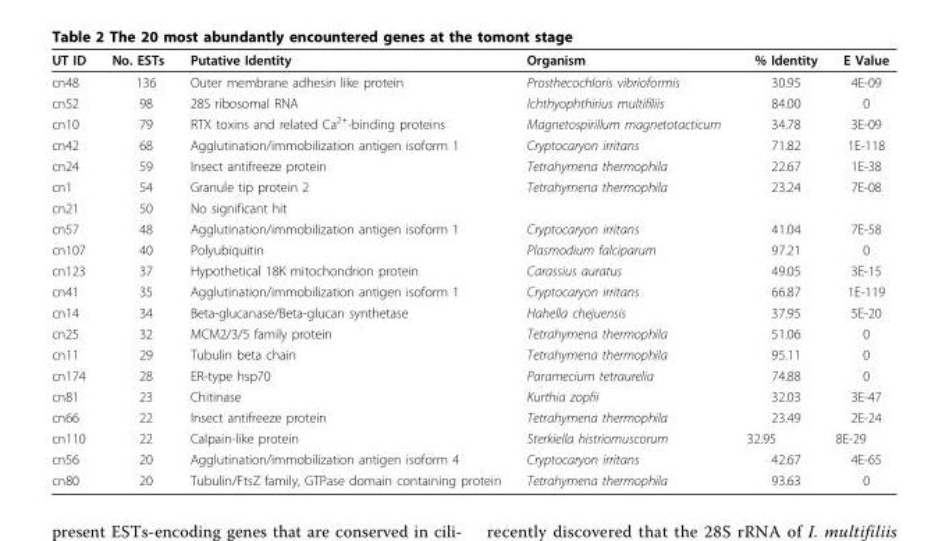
<table><thead><tr><td>UT ID</td><td>No. ESTs</td><td>Putative Identity</td><td>Organism</td><td>% Identity</td><td>E Value</td></tr></thead><tbody><tr><td>cn48</td><td>136</td><td>Outer membrane adhesin like protein</td><td>Prosthecochloris vibrioformis</td><td>30.95</td><td>4E-09</td></tr><tr><td>cn52</td><td>98</td><td>28S ribosomal RNA</td><td>Ichthyophthirius multifiliis</td><td>84.00</td><td>0</td></tr><tr><td>cn10</td><td>79</td><td>RTX toxins and related Ca<sup>2+</sup>-binding proteins</td><td>Magnetospirillum magnetotacticum</td><td>34.78</td><td>3E-09</td></tr><tr><td>cn42</td><td>68</td><td>Agglutination/immobilization antigen isoform 1</td><td>Cryptocaryon irritans</td><td>71.82</td><td>1E-118</td></tr><tr><td>cn24</td><td>59</td><td>Insect antifreeze protein</td><td>Tetrahymena thermophila</td><td>22.67</td><td>1E-38</td></tr><tr><td>cn1</td><td>54</td><td>Granule tip protein 2</td><td>Tetrahymena thermophila</td><td>23.24</td><td>7E-08</td></tr><tr><td>cn21</td><td>50</td><td>No significant hit</td><td></td><td></td><td></td></tr><tr><td>cn57</td><td>48</td><td>Agglutination/immobilization antigen isoform 1</td><td>Cryptocaryon irritans</td><td>41.04</td><td>7E-58</td></tr><tr><td>cn107</td><td>40</td><td>Polyubiquitin</td><td>Plasmodium falciparum</td><td>97.21</td><td>0</td></tr><tr><td>cn123</td><td>37</td><td>Hypothetical 18K mitochondrion protein</td><td>Carassius auratus</td><td>49.05</td><td>3E-15</td></tr><tr><td>cn41</td><td>35</td><td>Agglutination/immobilization antigen isoform 1</td><td>Cryptocaryon irritans</td><td>66.87</td><td>1E-119</td></tr><tr><td>cn14</td><td>34</td><td>Beta-glucanase/Beta-glucan synthetase</td><td>Hahella chejuensis</td><td>37.95</td><td>5E-20</td></tr><tr><td>cn25</td><td>32</td><td>MCM2/3/5 family protein</td><td>Tetrahymena thermophila</td><td>51.06</td><td>0</td></tr><tr><td>cn11</td><td>29</td><td>Tubulin beta chain</td><td>Tetrahymena thermophila</td><td>95.11</td><td>0</td></tr><tr><td>cn174</td><td>28</td><td>ER-type hsp70</td><td>Paramecium tetraurelia</td><td>74.88</td><td>0</td></tr><tr><td>cn81</td><td>23</td><td>Chitinase</td><td>Kurthia zopfii</td><td>32.03</td><td>3E-47</td></tr><tr><td>cn66</td><td>22</td><td>Insect antifreeze protein</td><td>Tetrahymena thermophila</td><td>23.49</td><td>2E-24</td></tr><tr><td>cn110</td><td>22</td><td>Calpain-like protein</td><td>Sterkiella histriomuscorum</td><td>32.95</td><td>8E-29</td></tr><tr><td>cn56</td><td>20</td><td>Agglutination/immobilization antigen isoform 4</td><td>Cryptocaryon irritans</td><td>42.67</td><td>4E-65</td></tr><tr><td>cn80</td><td>20</td><td>Tubulin/FtsZ family, GTPase domain containing protein</td><td>Tetrahymena thermophila</td><td>93.63</td><td>0</td></tr></tbody></table>